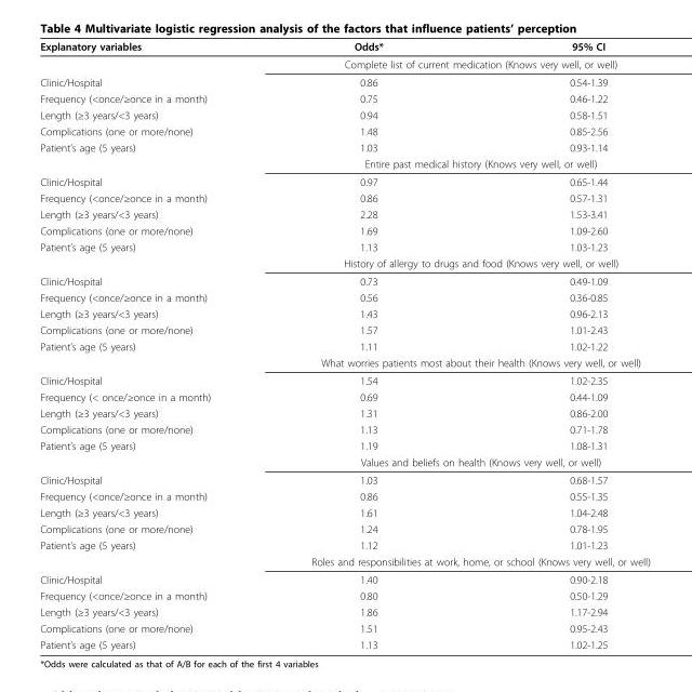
<table><thead><tr><td>Explanatory variables</td><td>Odds*</td><td>95% CI</td></tr></thead><tbody><tr><td></td><td colspan="2">Complete list of current medication (Knows very well, or well)</td></tr><tr><td>Clinic/Hospital</td><td>0.86</td><td>0.54-1.39</td></tr><tr><td>Frequency (&lt;once/≥once in a month)</td><td>0.75</td><td>0.46-1.22</td></tr><tr><td>Length (≥3 years/&lt;3 years)</td><td>0.94</td><td>0.58-1.51</td></tr><tr><td>Complications (one or more/none)</td><td>1.48</td><td>0.85-2.56</td></tr><tr><td rowspan="2">Patient’s age (5 years)</td><td>1.03</td><td>0.93-1.14</td></tr><tr><td colspan="2">Entire past medical history (Knows very well, or well)</td></tr><tr><td>Clinic/Hospital</td><td>0.97</td><td>0.65-1.44</td></tr><tr><td>Frequency (&lt;once/≥once in a month)</td><td>0.86</td><td>0.57-1.31</td></tr><tr><td>Length (≥3 years/&lt;3 years)</td><td>2.28</td><td>1.53-3.41</td></tr><tr><td>Complications (one or more/none)</td><td>1.69</td><td>1.09-2.60</td></tr><tr><td rowspan="2">Patient’s age (5 years)</td><td>1.13</td><td>1.03-1.23</td></tr><tr><td colspan="2">History of allergy to drugs and food (Knows very well, or well)</td></tr><tr><td>Clinic/Hospital</td><td>0.73</td><td>0.49-1.09</td></tr><tr><td>Frequency (&lt;once/≥once in a month)</td><td>0.56</td><td>0.36-0.85</td></tr><tr><td>Length (≥3 years/&lt;3 years)</td><td>1.43</td><td>0.96-2.13</td></tr><tr><td>Complications (one or more/none)</td><td>1.57</td><td>1.01-2.43</td></tr><tr><td rowspan="2">Patient’s age (5 years)</td><td>1.11</td><td>1.02-1.22</td></tr><tr><td colspan="2">What worries patients most about their health (Knows very well, or well)</td></tr><tr><td>Clinic/Hospital</td><td>1.54</td><td>1.02-2.35</td></tr><tr><td>Frequency (&lt; once/≥once in a month)</td><td>0.69</td><td>0.44-1.09</td></tr><tr><td>Length (≥3 years/&lt;3 years)</td><td>1.31</td><td>0.86-2.00</td></tr><tr><td>Complications (one or more/none)</td><td>1.13</td><td>0.71-1.78</td></tr><tr><td rowspan="2">Patient’s age (5 years)</td><td>1.19</td><td>1.08-1.31</td></tr><tr><td colspan="2">Values and beliefs on health (Knows very well, or well)</td></tr><tr><td>Clinic/Hospital</td><td>1.03</td><td>0.68-1.57</td></tr><tr><td>Frequency (&lt;once/≥once in a month)</td><td>0.86</td><td>0.55-1.35</td></tr><tr><td>Length (≥3 years/&lt;3 years)</td><td>1.61</td><td>1.04-2.48</td></tr><tr><td>Complications (one or more/none)</td><td>1.24</td><td>0.78-1.95</td></tr><tr><td rowspan="2">Patient’s age (5 years)</td><td>1.12</td><td>1.01-1.23</td></tr><tr><td colspan="2">Roles and responsibilities at work, home, or school (Knows very well, or well)</td></tr><tr><td>Clinic/Hospital</td><td>1.40</td><td>0.90-2.18</td></tr><tr><td>Frequency (&lt;once/≥once in a month)</td><td>0.80</td><td>0.50-1.29</td></tr><tr><td>Length (≥3 years/&lt;3 years)</td><td>1.86</td><td>1.17-2.94</td></tr><tr><td>Complications (one or more/none)</td><td>1.51</td><td>0.95-2.43</td></tr><tr><td>Patient’s age (5 years)</td><td>1.13</td><td>1.02-1.25</td></tr></tbody></table>